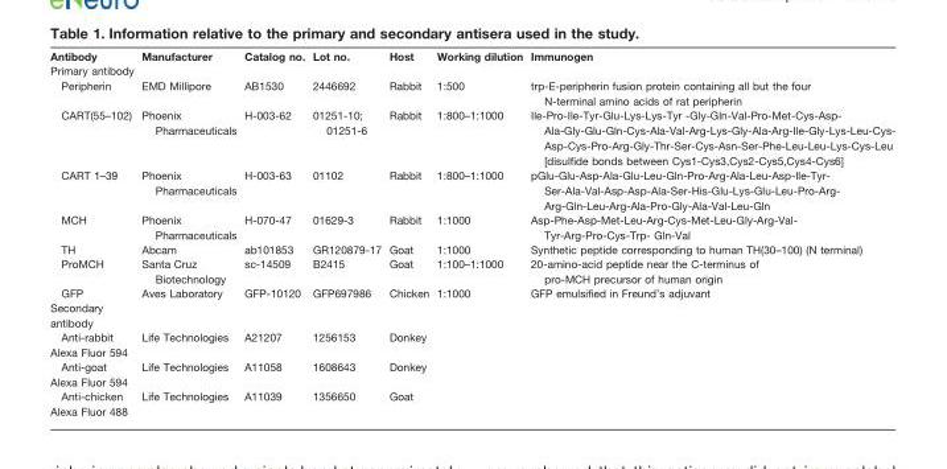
<table><thead><tr><td>Antibody</td><td>Manufacturer</td><td>Catalog no.</td><td>Lot no.</td><td>Host</td><td>Working dilution</td><td>Immunogen</td></tr></thead><tbody><tr><td colspan="7">Primary antibody</td></tr><tr><td>Peripherin</td><td>EMD Millipore</td><td>AB1530</td><td>2446692</td><td>Rabbit</td><td>1:500</td><td>trp-E-peripherin fusion protein containing all but the four N-terminal amino acids of rat peripherin</td></tr><tr><td>CART(55–102)</td><td>Phoenix Pharmaceuticals</td><td>H-003-62</td><td>01251-10; 01251-6</td><td>Rabbit</td><td>1:800–1:1000</td><td>Ile-Pro-Ile-Tyr-Glu-Lys-Lys-Tyr -Gly-Gln-Val-Pro-Met-Cys-Asp- Ala-Gly-Glu-Gln-Cys-Ala-Val-Arg-Lys-Gly-Ala-Arg-Ile-Gly-Lys-Leu-Cys- Asp-Cys-Pro-Arg-Gly-Thr-Ser-Cys-Asn-Ser-Phe-Leu-Leu-Lys-Cys-Leu [disulfide bonds between Cys1-Cys3,Cys2-Cys5,Cys4-Cys6]</td></tr><tr><td>CART 1–39</td><td>Phoenix Pharmaceuticals</td><td>H-003-63</td><td>01102</td><td>Rabbit</td><td>1:800–1:1000</td><td>pGlu-Glu-Asp-Ala-Glu-Leu-Gln-Pro-Arg-Ala-Leu-Asp-Ile-Tyr- Ser-Ala-Val-Asp-Asp-Ala-Ser-His-Glu-Lys-Glu-Leu-Pro-Arg- Arg-Gln-Leu-Arg-Ala-Pro-Gly-Ala-Val-Leu-Gln</td></tr><tr><td>MCH</td><td>Phoenix Pharmaceuticals</td><td>H-070-47</td><td>01629-3</td><td>Rabbit</td><td>1:1000</td><td>Asp-Phe-Asp-Met-Leu-Arg-Cys-Met-Leu-Gly-Arg-Val- Tyr-Arg-Pro-Cys-Trp- Gln-Val</td></tr><tr><td>TH</td><td>Abcam</td><td>ab101853</td><td>GR120879-17</td><td>Goat</td><td>1:1000</td><td>Synthetic peptide corresponding to human TH(30–100) (N terminal)</td></tr><tr><td>ProMCH</td><td>Santa Cruz Biotechnology</td><td>sc-14509</td><td>B2415</td><td>Goat</td><td>1:100–1:1000</td><td>20-amino-acid peptide near the C-terminus of pro-MCH precursor of human origin</td></tr><tr><td>GFP</td><td>Aves Laboratory</td><td>GFP-10120</td><td>GFP697986</td><td>Chicken</td><td>1:1000</td><td>GFP emulsified in Freund’s adjuvant</td></tr><tr><td colspan="7">Secondary antibody</td></tr><tr><td>Anti-rabbit Alexa Fluor 594</td><td>Life Technologies</td><td>A21207</td><td>1256153</td><td>Donkey</td><td></td><td></td></tr><tr><td>Anti-goat Alexa Fluor 594</td><td>Life Technologies</td><td>A11058</td><td>1608643</td><td>Donkey</td><td></td><td></td></tr><tr><td>Anti-chicken Alexa Fluor 488</td><td>Life Technologies</td><td>A11039</td><td>1356650</td><td>Goat</td><td></td><td></td></tr></tbody></table>